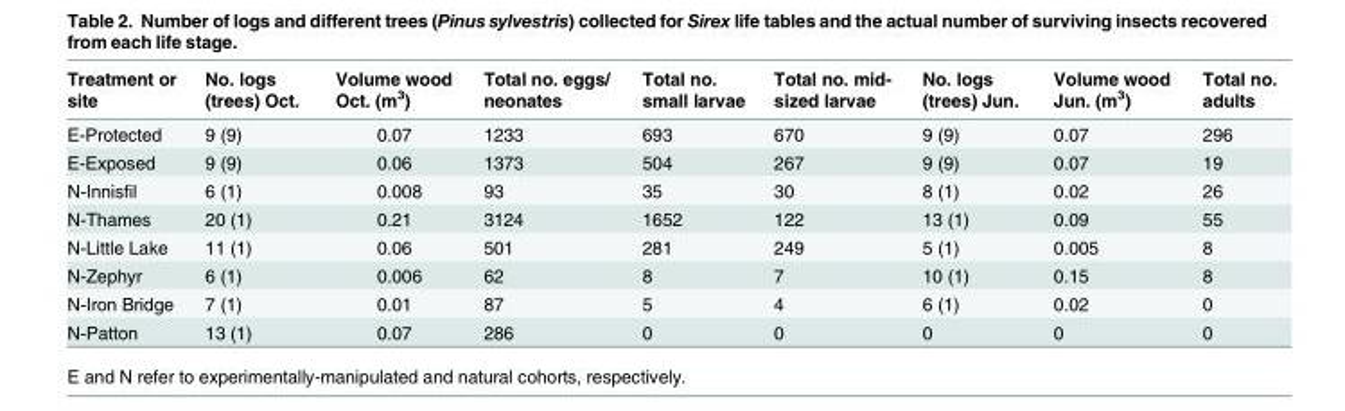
<table><thead><tr><td>Treatment or site</td><td>No. logs (trees) Oct.</td><td>Volume wood Oct. (m<sup>3</sup>)</td><td>Total no. eggs/ neonates</td><td>Total no. small larvae</td><td>Total no. mid- sized larvae</td><td>No. logs (trees) Jun.</td><td>Volume wood Jun. (m<sup>3</sup>)</td><td>Total no. adults</td></tr></thead><tbody><tr><td>E-Protected</td><td>9 (9)</td><td>0.07</td><td>1233</td><td>693</td><td>670</td><td>9 (9)</td><td>0.07</td><td>296</td></tr><tr><td>E-Exposed</td><td>9 (9)</td><td>0.06</td><td>1373</td><td>504</td><td>267</td><td>9 (9)</td><td>0.07</td><td>19</td></tr><tr><td>N-Innisfil</td><td>6 (1)</td><td>0.008</td><td>93</td><td>35</td><td>30</td><td>8 (1)</td><td>0.02</td><td>26</td></tr><tr><td>N-Thames</td><td>20 (1)</td><td>0.21</td><td>3124</td><td>1652</td><td>122</td><td>13 (1)</td><td>0.09</td><td>55</td></tr><tr><td>N-Little Lake</td><td>11 (1)</td><td>0.06</td><td>501</td><td>281</td><td>249</td><td>5 (1)</td><td>0.005</td><td>8</td></tr><tr><td>N-Zephyr</td><td>6 (1)</td><td>0.006</td><td>62</td><td>8</td><td>7</td><td>10 (1)</td><td>0.15</td><td>8</td></tr><tr><td>N-Iron Bridge</td><td>7 (1)</td><td>0.01</td><td>87</td><td>5</td><td>4</td><td>6 (1)</td><td>0.02</td><td>0</td></tr><tr><td>N-Patton</td><td>13 (1)</td><td>0.07</td><td>286</td><td>0</td><td>0</td><td>0</td><td>0</td><td>0</td></tr></tbody></table>